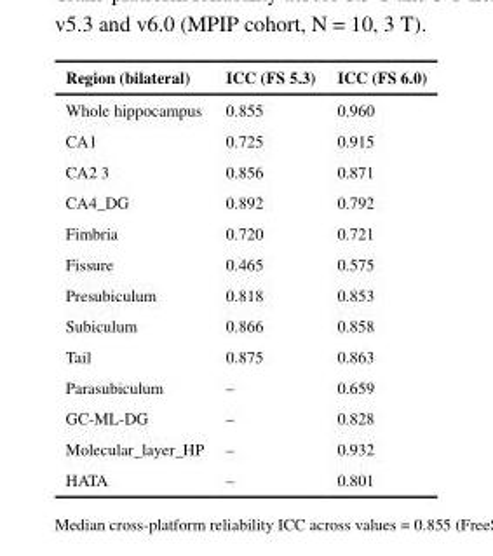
<table><thead><tr><td>Region (bilateral)</td><td>ICC (FS 5.3)</td><td>ICC (FS 6.0)</td></tr></thead><tbody><tr><td>Whole hippocampus</td><td>0.855</td><td>0.960</td></tr><tr><td>CA1</td><td>0.725</td><td>0.915</td></tr><tr><td>CA2 3</td><td>0.856</td><td>0.871</td></tr><tr><td>CA4_DG</td><td>0.892</td><td>0.792</td></tr><tr><td>Fimbria</td><td>0.720</td><td>0.721</td></tr><tr><td>Fissure</td><td>0.465</td><td>0.575</td></tr><tr><td>Presubiculum</td><td>0.818</td><td>0.853</td></tr><tr><td>Subiculum</td><td>0.866</td><td>0.858</td></tr><tr><td>Tail</td><td>0.875</td><td>0.863</td></tr><tr><td>Parasubiculum</td><td>–</td><td>0.659</td></tr><tr><td>GC-ML-DG</td><td>–</td><td>0.828</td></tr><tr><td>Molecular_layer_HP</td><td>–</td><td>0.932</td></tr><tr><td>HATA</td><td>–</td><td>0.801</td></tr></tbody></table>